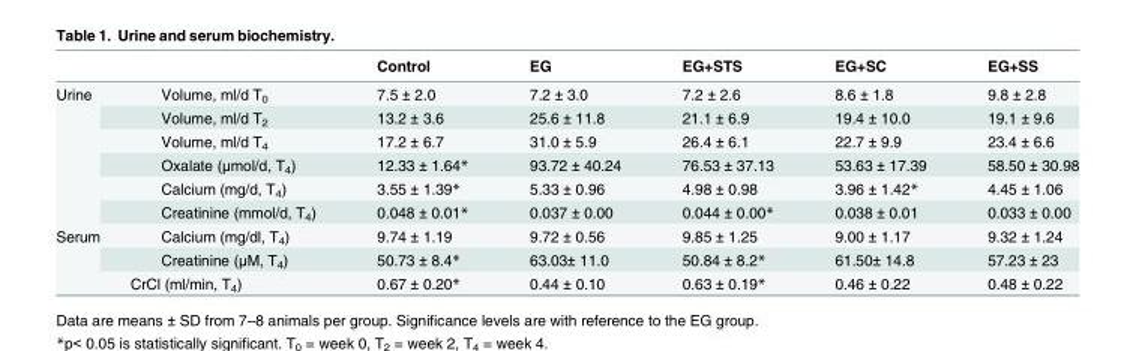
<table><thead><tr><td></td><td></td><td>Control</td><td>EG</td><td>EG+STS</td><td>EG+SC</td><td>EG+SS</td></tr></thead><tbody><tr><td rowspan="6">Urine</td><td>Volume, ml/d T<sub>0</sub></td><td>7.5 ± 2.0</td><td>7.2 ± 3.0</td><td>7.2 ± 2.6</td><td>8.6 ± 1.8</td><td>9.8 ± 2.8</td></tr><tr><td>Volume, ml/d T<sub>2</sub></td><td>13.2 ± 3.6</td><td>25.6 ± 11.8</td><td>21.1 ± 6.9</td><td>19.4 ± 10.0</td><td>19.1 ± 9.6</td></tr><tr><td>Volume, ml/d T<sub>4</sub></td><td>17.2 ± 6.7</td><td>31.0 ± 5.9</td><td>26.4 ± 6.1</td><td>22.7 ± 9.9</td><td>23.4 ± 6.6</td></tr><tr><td>Oxalate (μmol/d, T<sub>4</sub>)</td><td>12.33 ± 1.64*</td><td>93.72 ± 40.24</td><td>76.53 ± 37.13</td><td>53.63 ± 17.39</td><td>58.50 ± 30.98</td></tr><tr><td>Calcium (mg/d, T<sub>4</sub>)</td><td>3.55 ± 1.39*</td><td>5.33 ± 0.96</td><td>4.98 ± 0.98</td><td>3.96 ± 1.42*</td><td>4.45 ± 1.06</td></tr><tr><td>Creatinine (mmol/d, T<sub>4</sub>)</td><td>0.048 ± 0.01*</td><td>0.037 ± 0.00</td><td>0.044 ± 0.00*</td><td>0.038 ± 0.01</td><td>0.033 ± 0.00</td></tr><tr><td rowspan="2">Serum</td><td>Calcium (mg/dl, T<sub>4</sub>)</td><td>9.74 ± 1.19</td><td>9.72 ± 0.56</td><td>9.85 ± 1.25</td><td>9.00 ± 1.17</td><td>9.32 ± 1.24</td></tr><tr><td>Creatinine (μM, T<sub>4</sub>)</td><td>50.73 ± 8.4*</td><td>63.03± 11.0</td><td>50.84 ± 8.2*</td><td>61.50± 14.8</td><td>57.23 ± 23</td></tr><tr><td colspan="2">CrCl (ml/min, T<sub>4</sub>)</td><td>0.67 ± 0.20*</td><td>0.44 ± 0.10</td><td>0.63 ± 0.19*</td><td>0.46 ± 0.22</td><td>0.48 ± 0.22</td></tr></tbody></table>